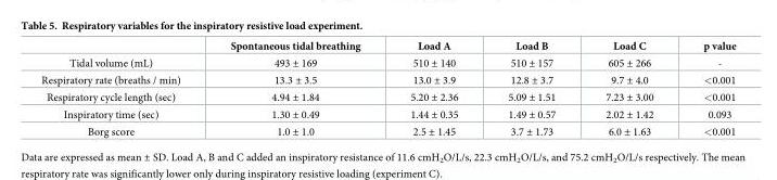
<table><thead><tr><td></td><td>Spontaneous tidal breathing</td><td>Load A</td><td>Load B</td><td>Load C</td><td>p value</td></tr></thead><tbody><tr><td>Tidal volume (mL)</td><td>493 ± 169</td><td>510 ± 140</td><td>510 ± 157</td><td>605 ± 266</td><td>-</td></tr><tr><td>Respiratory rate (breaths / min)</td><td>13.3 ± 3.5</td><td>13.0 ± 3.9</td><td>12.8 ± 3.7</td><td>9.7 ± 4.0</td><td>&lt;0.001</td></tr><tr><td>Respiratory cycle length (sec)</td><td>4.94 ± 1.84</td><td>5.20 ± 2.36</td><td>5.09 ± 1.51</td><td>7.23 ± 3.00</td><td>&lt;0.001</td></tr><tr><td>Inspiratory time (sec)</td><td>1.30 ± 0.49</td><td>1.44 ± 0.35</td><td>1.49 ± 0.57</td><td>2.02 ± 1.42</td><td>0.093</td></tr><tr><td>Borg score</td><td>1.0 ± 1.0</td><td>2.5 ± 1.45</td><td>3.7 ± 1.73</td><td>6.0 ± 1.63</td><td>&lt;0.001</td></tr></tbody></table>